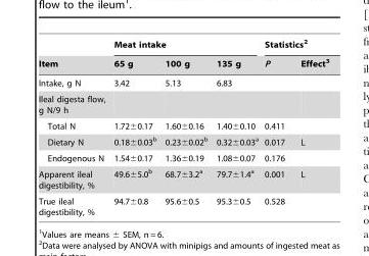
<table><thead><tr><td rowspan="2">Item</td><td colspan="3">Meat intake</td><td colspan="2">Statistics<sup>2</sup></td></tr><tr><td>65 g</td><td>100 g</td><td>135 g</td><td>P</td><td>Effect<sup>3</sup></td></tr></thead><tbody><tr><td>Intake, g N</td><td>3.42</td><td>5.13</td><td>6.83</td><td></td><td></td></tr><tr><td colspan="6">Ileal digesta flow, g N/9 h</td></tr><tr><td>Total N</td><td>1.72±0.17</td><td>1.60±0.16</td><td>1.40±0.10</td><td>0.411</td><td></td></tr><tr><td>Dietary N</td><td>0.18±0.03<sup>b</sup></td><td>0.23±0.02<sup>b</sup></td><td>0.32±0.03<sup>a</sup></td><td>0.017</td><td>L</td></tr><tr><td>Endogenous N</td><td>1.54±0.17</td><td>1.36±0.19</td><td>1.08±0.07</td><td>0.176</td><td></td></tr><tr><td>Apparent ileal digestibility, %</td><td>49.6±5.0<sup>b</sup></td><td>68.7±3.2<sup>a</sup></td><td>79.7±1.4<sup>a</sup></td><td>0.001</td><td>L</td></tr><tr><td>True ileal digestibility, %</td><td>94.7±0.8</td><td>95.6±0.5</td><td>95.3±0.5</td><td>0.528</td><td></td></tr></tbody></table>